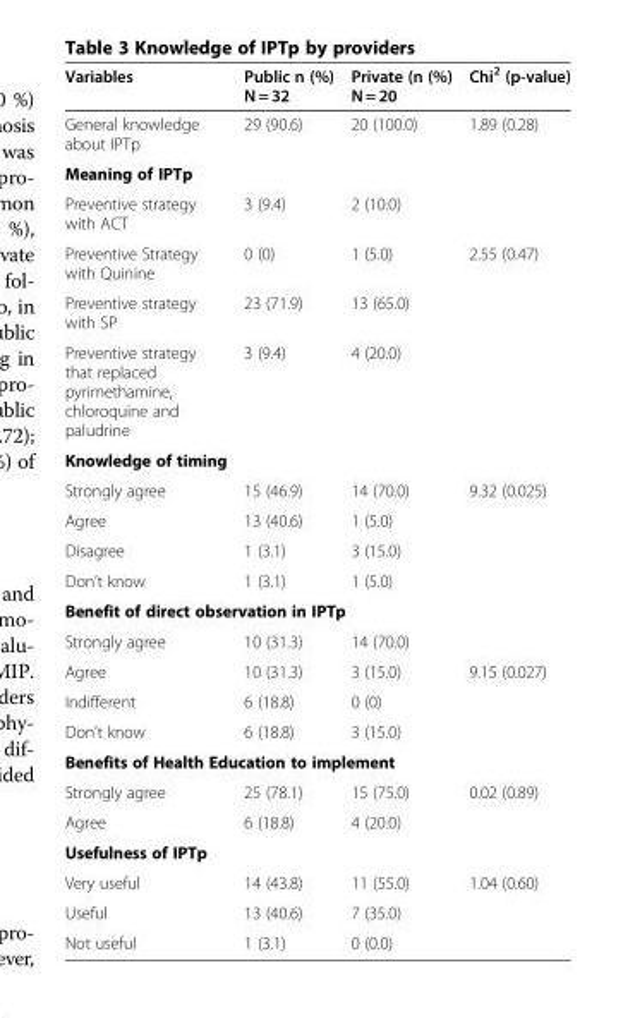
<table><thead><tr><td>Variables</td><td>Public n (%) N = 32</td><td>Private (n (%) N = 20</td><td>Chi<sup>2</sup> (p-value)</td></tr></thead><tbody><tr><td>General knowledge about IPTp</td><td>29 (90.6)</td><td>20 (100.0)</td><td>1.89 (0.28)</td></tr><tr><td colspan="4">Meaning of IPTp</td></tr><tr><td>Preventive strategy with ACT</td><td>3 (9.4)</td><td>2 (10.0)</td><td></td></tr><tr><td>Preventive Strategy with Quinine</td><td>0 (0)</td><td>1 (5.0)</td><td>2.55 (0.47)</td></tr><tr><td>Preventive strategy with SP</td><td>23 (71.9)</td><td>13 (65.0)</td><td></td></tr><tr><td>Preventive strategy that replaced pyrimethamine, chloroquine and paludrine</td><td>3 (9.4)</td><td>4 (20.0)</td><td></td></tr><tr><td colspan="4">Knowledge of timing</td></tr><tr><td>Strongly agree</td><td>15 (46.9)</td><td>14 (70.0)</td><td>9.32 (0.025)</td></tr><tr><td>Agree</td><td>13 (40.6)</td><td>1 (5.0)</td><td></td></tr><tr><td>Disagree</td><td>1 (3.1)</td><td>3 (15.0)</td><td></td></tr><tr><td>Don’t know</td><td>1 (3.1)</td><td>1 (5.0)</td><td></td></tr><tr><td colspan="4">Benefit of direct observation in IPTp</td></tr><tr><td>Strongly agree</td><td>10 (31.3)</td><td>14 (70.0)</td><td></td></tr><tr><td>Agree</td><td>10 (31.3)</td><td>3 (15.0)</td><td>9.15 (0.027)</td></tr><tr><td>Indifferent</td><td>6 (18.8)</td><td>0 (0)</td><td></td></tr><tr><td>Don’t know</td><td>6 (18.8)</td><td>3 (15.0)</td><td></td></tr><tr><td colspan="4">Benefits of Health Education to implement</td></tr><tr><td>Strongly agree</td><td>25 (78.1)</td><td>15 (75.0)</td><td>0.02 (0.89)</td></tr><tr><td>Agree</td><td>6 (18.8)</td><td>4 (20.0)</td><td></td></tr><tr><td colspan="4">Usefulness of IPTp</td></tr><tr><td>Very useful</td><td>14 (43.8)</td><td>11 (55.0)</td><td>1.04 (0.60)</td></tr><tr><td>Useful</td><td>13 (40.6)</td><td>7 (35.0)</td><td></td></tr><tr><td>Not useful</td><td>1 (3.1)</td><td>0 (0.0)</td><td></td></tr></tbody></table>